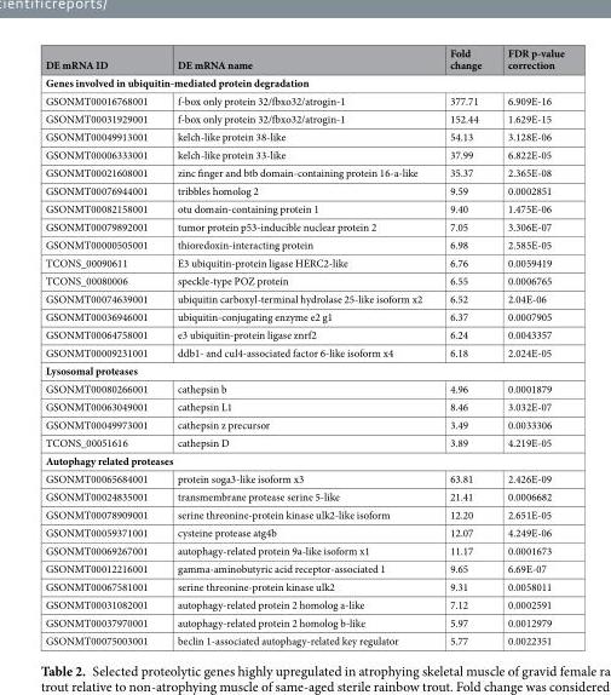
<table><thead><tr><td>DE mRNA ID</td><td>DE mRNA name</td><td>Fold change</td><td>FDR p-value correction</td></tr></thead><tbody><tr><td colspan="4">Genes involved in ubiquitin-mediated protein degradation</td></tr><tr><td>GSONMT00016768001</td><td>f-box only protein 32/fbxo32/atrogin-1</td><td>377.71</td><td>6.909E-16</td></tr><tr><td>GSONMT00031929001</td><td>f-box only protein 32/fbxo32/atrogin-1</td><td>152.44</td><td>1.629E-15</td></tr><tr><td>GSONMT00049913001</td><td>kelch-like protein 38-like</td><td>54.13</td><td>3.128E-06</td></tr><tr><td>GSONMT00006333001</td><td>kelch-like protein 33-like</td><td>37.99</td><td>6.822E-05</td></tr><tr><td>GSONMT00021608001</td><td>zinc finger and btb domain-containing protein 16-a-like</td><td>35.37</td><td>2.365E-08</td></tr><tr><td>GSONMT00076944001</td><td>tribbles homolog 2</td><td>9.59</td><td>0.0002851</td></tr><tr><td>GSONMT00082158001</td><td>otu domain-containing protein 1</td><td>9.40</td><td>1.475E-06</td></tr><tr><td>GSONMT00079892001</td><td>tumor protein p53-inducible nuclear protein 2</td><td>7.05</td><td>3.306E-07</td></tr><tr><td>GSONMT00000505001</td><td>thioredoxin-interacting protein</td><td>6.98</td><td>2.585E-05</td></tr><tr><td>TCONS_00090611</td><td>E3 ubiquitin-protein ligase HERC2-like</td><td>6.76</td><td>0.0059419</td></tr><tr><td>TCONS_00080006</td><td>speckle-type POZ protein</td><td>6.55</td><td>0.0006765</td></tr><tr><td>GSONMT00074639001</td><td>ubiquitin carboxyl-terminal hydrolase 25-like isoform x2</td><td>6.52</td><td>2.04E-06</td></tr><tr><td>GSONMT00036946001</td><td>ubiquitin-conjugating enzyme e2 g1</td><td>6.37</td><td>0.0007905</td></tr><tr><td>GSONMT00064758001</td><td>e3 ubiquitin-protein ligase znrf2</td><td>6.24</td><td>0.0043357</td></tr><tr><td>GSONMT00009231001</td><td>ddb1- and cul4-associated factor 6-like isoform x4</td><td>6.18</td><td>2.024E-05</td></tr><tr><td colspan="4">Lysosomal proteases</td></tr><tr><td>GSONMT00080266001</td><td>cathepsin b</td><td>4.96</td><td>0.0001879</td></tr><tr><td>GSONMT00063049001</td><td>cathepsin L1</td><td>8.46</td><td>3.032E-07</td></tr><tr><td>GSONMT00049973001</td><td>cathepsin z precursor</td><td>3.49</td><td>0.0033306</td></tr><tr><td>TCONS_00051616</td><td>cathepsin D</td><td>3.89</td><td>4.219E-05</td></tr><tr><td colspan="4">Autophagy related proteases</td></tr><tr><td>GSONMT00065684001</td><td>protein soga3-like isoform x3</td><td>63.81</td><td>2.426E-09</td></tr><tr><td>GSONMT00024835001</td><td>transmembrane protease serine 5-like</td><td>21.41</td><td>0.0006682</td></tr><tr><td>GSONMT00078909001</td><td>serine threonine-protein kinase ulk2-like isoform</td><td>12.20</td><td>2.651E-05</td></tr><tr><td>GSONMT00059371001</td><td>cysteine protease atg4b</td><td>12.07</td><td>4.249E-06</td></tr><tr><td>GSONMT00069267001</td><td>autophagy-related protein 9a-like isoform x1</td><td>11.17</td><td>0.0001673</td></tr><tr><td>GSONMT00012216001</td><td>gamma-aminobutyric acid receptor-associated 1</td><td>9.65</td><td>6.69E-07</td></tr><tr><td>GSONMT00067581001</td><td>serine threonine-protein kinase ulk2</td><td>9.31</td><td>0.0058011</td></tr><tr><td>GSONMT00031082001</td><td>autophagy-related protein 2 homolog a-like</td><td>7.12</td><td>0.0002591</td></tr><tr><td>GSONMT00037970001</td><td>autophagy-related protein 2 homolog b-like</td><td>5.97</td><td>0.0012979</td></tr><tr><td>GSONMT00075003001</td><td>beclin 1-associated autophagy-related key regulator</td><td>5.77</td><td>0.0022351</td></tr></tbody></table>